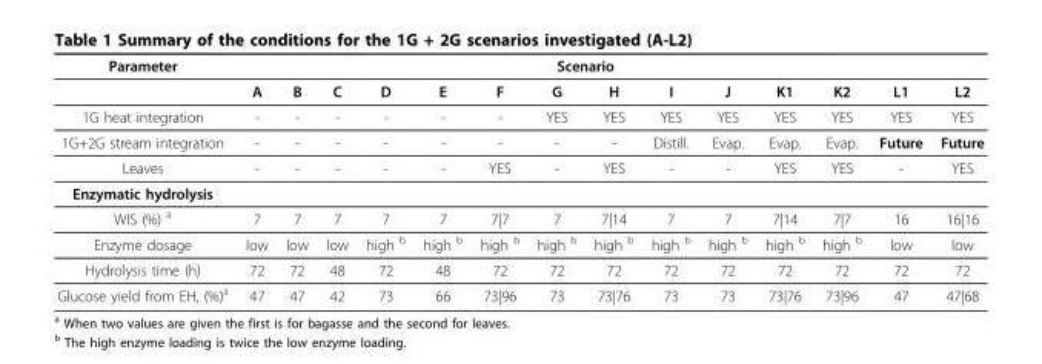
<table><thead><tr><td rowspan="2">Parameter</td><td rowspan="2">A</td><td rowspan="2">B</td><td rowspan="2">C</td><td rowspan="2">D</td><td rowspan="2">E</td><td rowspan="2">F</td><td colspan="2">Scenario</td><td rowspan="2">I</td><td rowspan="2">J</td><td rowspan="2">K1</td><td rowspan="2">K2</td><td rowspan="2">L1</td><td rowspan="2">L2</td></tr><tr><td>G</td><td>H</td></tr></thead><tbody><tr><td>1G heat integration</td><td>-</td><td>-</td><td>-</td><td>-</td><td>-</td><td>-</td><td>YES</td><td>YES</td><td>YES</td><td>YES</td><td>YES</td><td>YES</td><td>YES</td><td>YES</td></tr><tr><td>1G+2G stream integration</td><td>-</td><td>-</td><td>-</td><td>-</td><td>-</td><td>-</td><td>-</td><td>-</td><td>Distill.</td><td>Evap.</td><td>Evap.</td><td>Evap.</td><td>Future</td><td>Future</td></tr><tr><td>Leaves</td><td>-</td><td>-</td><td>-</td><td>-</td><td>-</td><td>YES</td><td>-</td><td>YES</td><td>-</td><td>-</td><td>YES</td><td>YES</td><td>-</td><td>YES</td></tr><tr><td colspan="15">Enzymatic hydrolysis</td></tr><tr><td>WIS (%) <sup>a</sup></td><td>7</td><td>7</td><td>7</td><td>7</td><td>7</td><td>7|7</td><td>7</td><td>7|14</td><td>7</td><td>7</td><td>7|14</td><td>7|7</td><td>16</td><td>16|16</td></tr><tr><td>Enzyme dosage</td><td>low</td><td>low</td><td>low</td><td>high <sup>b</sup></td><td>high <sup>b</sup></td><td>high <sup>b</sup></td><td>high <sup>b</sup></td><td>high <sup>b</sup></td><td>high <sup>b</sup></td><td>high <sup>b</sup></td><td>high <sup>b</sup></td><td>high <sup>b</sup></td><td>low</td><td>low</td></tr><tr><td>Hydrolysis time (h)</td><td>72</td><td>72</td><td>48</td><td>72</td><td>48</td><td>72</td><td>72</td><td>72</td><td>72</td><td>72</td><td>72</td><td>72</td><td>72</td><td>72</td></tr><tr><td>Glucose yield from EH, (%)<sup>a</sup></td><td>47</td><td>47</td><td>42</td><td>73</td><td>66</td><td>73|96</td><td>73</td><td>73|76</td><td>73</td><td>73</td><td>73|76</td><td>73|96</td><td>47</td><td>47|68</td></tr></tbody></table>